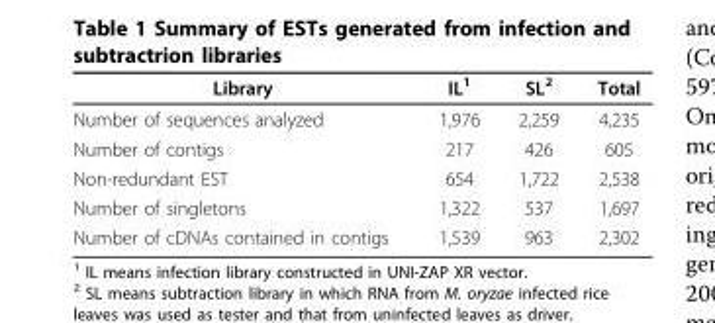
<table><thead><tr><td>Library</td><td>IL<sup>1</sup></td><td>SL<sup>2</sup></td><td>Total</td></tr></thead><tbody><tr><td>Number of sequences analyzed</td><td>1,976</td><td>2,259</td><td>4,235</td></tr><tr><td>Number of contigs</td><td>217</td><td>426</td><td>605</td></tr><tr><td>Non-redundant EST</td><td>654</td><td>1,722</td><td>2,538</td></tr><tr><td>Number of singletons</td><td>1,322</td><td>537</td><td>1,697</td></tr><tr><td>Number of cDNAs contained in contigs</td><td>1,539</td><td>963</td><td>2,302</td></tr></tbody></table>